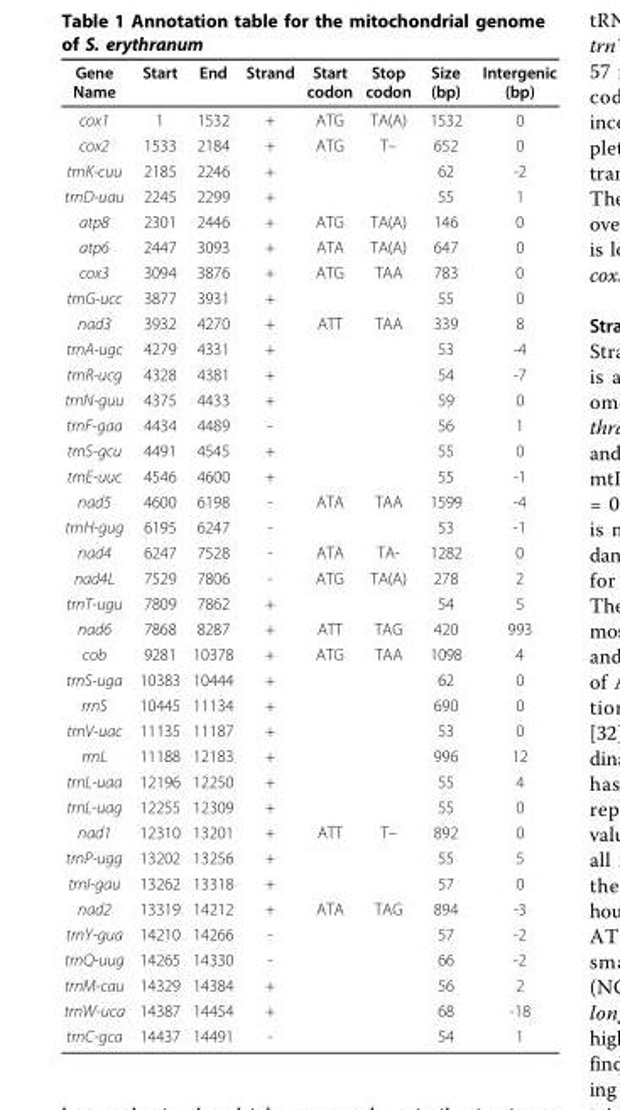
<table><thead><tr><td>Gene Name</td><td>Start</td><td>End</td><td>Strand</td><td>Start codon</td><td>Stop codon</td><td>Size (bp)</td><td>Intergenic (bp)</td></tr></thead><tbody><tr><td>cox1</td><td>1</td><td>1532</td><td>+</td><td>ATG</td><td>TA(A)</td><td>1532</td><td>0</td></tr><tr><td>cox2</td><td>1533</td><td>2184</td><td>+</td><td>ATG</td><td>T–</td><td>652</td><td>0</td></tr><tr><td>trnK-cuu</td><td>2185</td><td>2246</td><td>+</td><td></td><td></td><td>62</td><td>-2</td></tr><tr><td>trnD-uau</td><td>2245</td><td>2299</td><td>+</td><td></td><td></td><td>55</td><td>1</td></tr><tr><td>atp8</td><td>2301</td><td>2446</td><td>+</td><td>ATG</td><td>TA(A)</td><td>146</td><td>0</td></tr><tr><td>atp6</td><td>2447</td><td>3093</td><td>+</td><td>ATA</td><td>TA(A)</td><td>647</td><td>0</td></tr><tr><td>cox3</td><td>3094</td><td>3876</td><td>+</td><td>ATG</td><td>TAA</td><td>783</td><td>0</td></tr><tr><td>trnG-ucc</td><td>3877</td><td>3931</td><td>+</td><td></td><td></td><td>55</td><td>0</td></tr><tr><td>nad3</td><td>3932</td><td>4270</td><td>+</td><td>ATT</td><td>TAA</td><td>339</td><td>8</td></tr><tr><td>trnA-ugc</td><td>4279</td><td>4331</td><td>+</td><td></td><td></td><td>53</td><td>-4</td></tr><tr><td>trnR-ucg</td><td>4328</td><td>4381</td><td>+</td><td></td><td></td><td>54</td><td>-7</td></tr><tr><td>trnN-guu</td><td>4375</td><td>4433</td><td>+</td><td></td><td></td><td>59</td><td>0</td></tr><tr><td>trnF-gaa</td><td>4434</td><td>4489</td><td>-</td><td></td><td></td><td>56</td><td>1</td></tr><tr><td>trnS-gcu</td><td>4491</td><td>4545</td><td>+</td><td></td><td></td><td>55</td><td>0</td></tr><tr><td>trnE-uuc</td><td>4546</td><td>4600</td><td>+</td><td></td><td></td><td>55</td><td>-1</td></tr><tr><td>nad5</td><td>4600</td><td>6198</td><td>-</td><td>ATA</td><td>TAA</td><td>1599</td><td>-4</td></tr><tr><td>trnH-gug</td><td>6195</td><td>6247</td><td>-</td><td></td><td></td><td>53</td><td>-1</td></tr><tr><td>nad4</td><td>6247</td><td>7528</td><td>-</td><td>ATA</td><td>TA-</td><td>1282</td><td>0</td></tr><tr><td>nad4L</td><td>7529</td><td>7806</td><td>-</td><td>ATG</td><td>TA(A)</td><td>278</td><td>2</td></tr><tr><td>trnT-ugu</td><td>7809</td><td>7862</td><td>+</td><td></td><td></td><td>54</td><td>5</td></tr><tr><td>nad6</td><td>7868</td><td>8287</td><td>+</td><td>ATT</td><td>TAG</td><td>420</td><td>993</td></tr><tr><td>cob</td><td>9281</td><td>10378</td><td>+</td><td>ATG</td><td>TAA</td><td>1098</td><td>4</td></tr><tr><td>trnS-uga</td><td>10383</td><td>10444</td><td>+</td><td></td><td></td><td>62</td><td>0</td></tr><tr><td>rrnS</td><td>10445</td><td>11134</td><td>+</td><td></td><td></td><td>690</td><td>0</td></tr><tr><td>trnV-uac</td><td>11135</td><td>11187</td><td>+</td><td></td><td></td><td>53</td><td>0</td></tr><tr><td>rrnL</td><td>11188</td><td>12183</td><td>+</td><td></td><td></td><td>996</td><td>12</td></tr><tr><td>trnL-uaa</td><td>12196</td><td>12250</td><td>+</td><td></td><td></td><td>55</td><td>4</td></tr><tr><td>trnL-uag</td><td>12255</td><td>12309</td><td>+</td><td></td><td></td><td>55</td><td>0</td></tr><tr><td>nad1</td><td>12310</td><td>13201</td><td>+</td><td>ATT</td><td>T–</td><td>892</td><td>0</td></tr><tr><td>trnP-ugg</td><td>13202</td><td>13256</td><td>+</td><td></td><td></td><td>55</td><td>5</td></tr><tr><td>trnI-gau</td><td>13262</td><td>13318</td><td>+</td><td></td><td></td><td>57</td><td>0</td></tr><tr><td>nad2</td><td>13319</td><td>14212</td><td>+</td><td>ATA</td><td>TAG</td><td>894</td><td>-3</td></tr><tr><td>trnY-gua</td><td>14210</td><td>14266</td><td>-</td><td></td><td></td><td>57</td><td>-2</td></tr><tr><td>trnQ-uug</td><td>14265</td><td>14330</td><td>-</td><td></td><td></td><td>66</td><td>-2</td></tr><tr><td>trnM-cau</td><td>14329</td><td>14384</td><td>+</td><td></td><td></td><td>56</td><td>2</td></tr><tr><td>trnW-uca</td><td>14387</td><td>14454</td><td>+</td><td></td><td></td><td>68</td><td>-18</td></tr><tr><td>trnC-gca</td><td>14437</td><td>14491</td><td>-</td><td></td><td></td><td>54</td><td>1</td></tr></tbody></table>